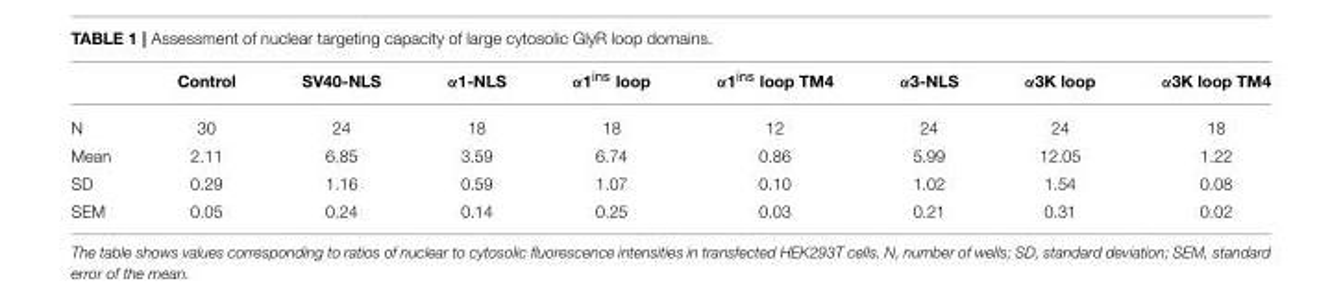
<table><thead><tr><td></td><td>Control</td><td>SV40-NLS</td><td>α1-NLS</td><td>α1<sup>ins</sup> loop</td><td>α1<sup>ins</sup> loop TM4</td><td>α3-NLS</td><td>α3K loop</td><td>α3K loop TM4</td></tr></thead><tbody><tr><td>N</td><td>30</td><td>24</td><td>18</td><td>18</td><td>12</td><td>24</td><td>24</td><td>18</td></tr><tr><td>Mean</td><td>2.11</td><td>6.85</td><td>3.59</td><td>6.74</td><td>0.86</td><td>5.99</td><td>12.05</td><td>1.22</td></tr><tr><td>SD</td><td>0.29</td><td>1.16</td><td>0.59</td><td>1.07</td><td>0.10</td><td>1.02</td><td>1.54</td><td>0.08</td></tr><tr><td>SEM</td><td>0.05</td><td>0.24</td><td>0.14</td><td>0.25</td><td>0.03</td><td>0.21</td><td>0.31</td><td>0.02</td></tr></tbody></table>